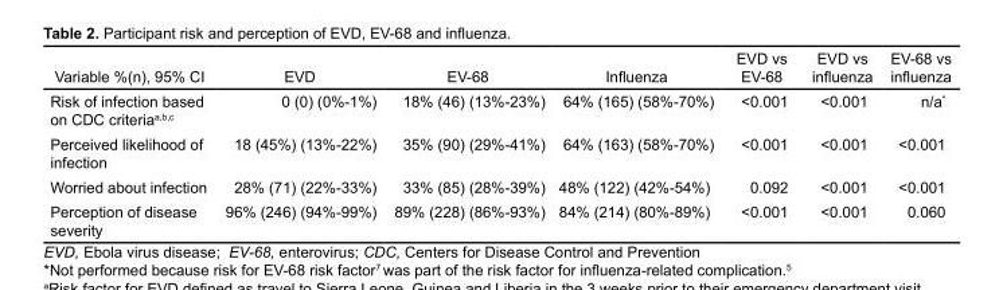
<table><thead><tr><td>Variable %(n), 95% CI</td><td>EVD</td><td>EV-68</td><td>Influenza</td><td>EVD vs EV-68</td><td>EVD vs influenza</td><td>EV-68 vs influenza</td></tr></thead><tbody><tr><td>Risk of infection based on CDC criteria<sup>a</sup>,<sup>b</sup>,<sup>c</sup></td><td>0 (0) (0%-1%)</td><td>18% (46) (13%-23%)</td><td>64% (165) (58%-70%)</td><td>&lt;0.001</td><td>&lt;0.001</td><td>n/a*</td></tr><tr><td>Perceived likelihood of infection</td><td>18 (45%) (13%-22%)</td><td>35% (90) (29%-41%)</td><td>64% (163) (58%-70%)</td><td>&lt;0.001</td><td>&lt;0.001</td><td>&lt;0.001</td></tr><tr><td>Worried about infection</td><td>28% (71) (22%-33%)</td><td>33% (85) (28%-39%)</td><td>48% (122) (42%-54%)</td><td>0.092</td><td>&lt;0.001</td><td>&lt;0.001</td></tr><tr><td>Perception of disease severity</td><td>96% (246) (94%-99%)</td><td>89% (228) (86%-93%)</td><td>84% (214) (80%-89%)</td><td>&lt;0.001</td><td>&lt;0.001</td><td>0.060</td></tr></tbody></table>